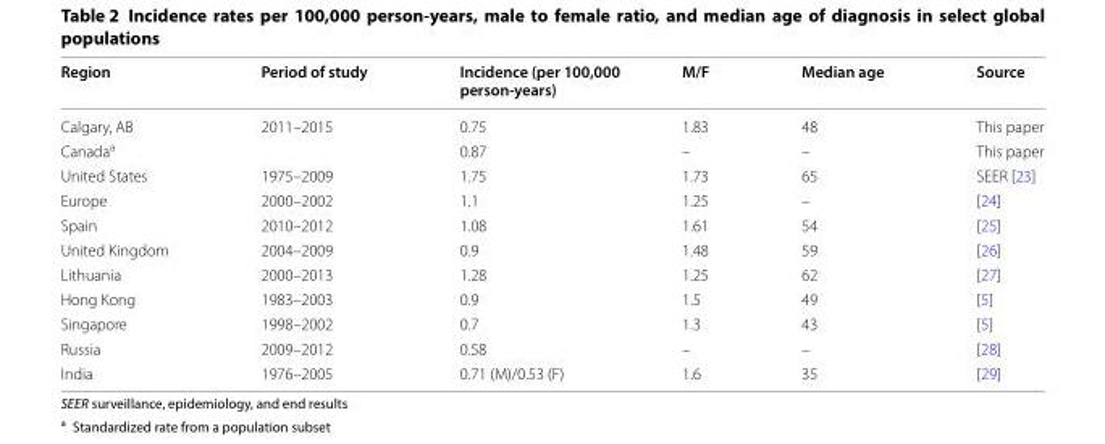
<table><thead><tr><td>Region</td><td>Period of study</td><td>Incidence (per 100,000 person-years)</td><td>M/F</td><td>Median age</td><td>Source</td></tr></thead><tbody><tr><td>Calgary, AB</td><td>2011–2015</td><td>0.75</td><td>1.83</td><td>48</td><td>This paper</td></tr><tr><td>Canada<sup>a</sup></td><td></td><td>0.87</td><td>–</td><td>–</td><td>This paper</td></tr><tr><td>United States</td><td>1975–2009</td><td>1.75</td><td>1.73</td><td>65</td><td>SEER [23]</td></tr><tr><td>Europe</td><td>2000–2002</td><td>1.1</td><td>1.25</td><td>–</td><td>[24]</td></tr><tr><td>Spain</td><td>2010–2012</td><td>1.08</td><td>1.61</td><td>54</td><td>[25]</td></tr><tr><td>United Kingdom</td><td>2004–2009</td><td>0.9</td><td>1.48</td><td>59</td><td>[26]</td></tr><tr><td>Lithuania</td><td>2000–2013</td><td>1.28</td><td>1.25</td><td>62</td><td>[27]</td></tr><tr><td>Hong Kong</td><td>1983–2003</td><td>0.9</td><td>1.5</td><td>49</td><td>[5]</td></tr><tr><td>Singapore</td><td>1998–2002</td><td>0.7</td><td>1.3</td><td>43</td><td>[5]</td></tr><tr><td>Russia</td><td>2009–2012</td><td>0.58</td><td>–</td><td>–</td><td>[28]</td></tr><tr><td>India</td><td>1976–2005</td><td>0.71 (M)/0.53 (F)</td><td>1.6</td><td>35</td><td>[29]</td></tr></tbody></table>